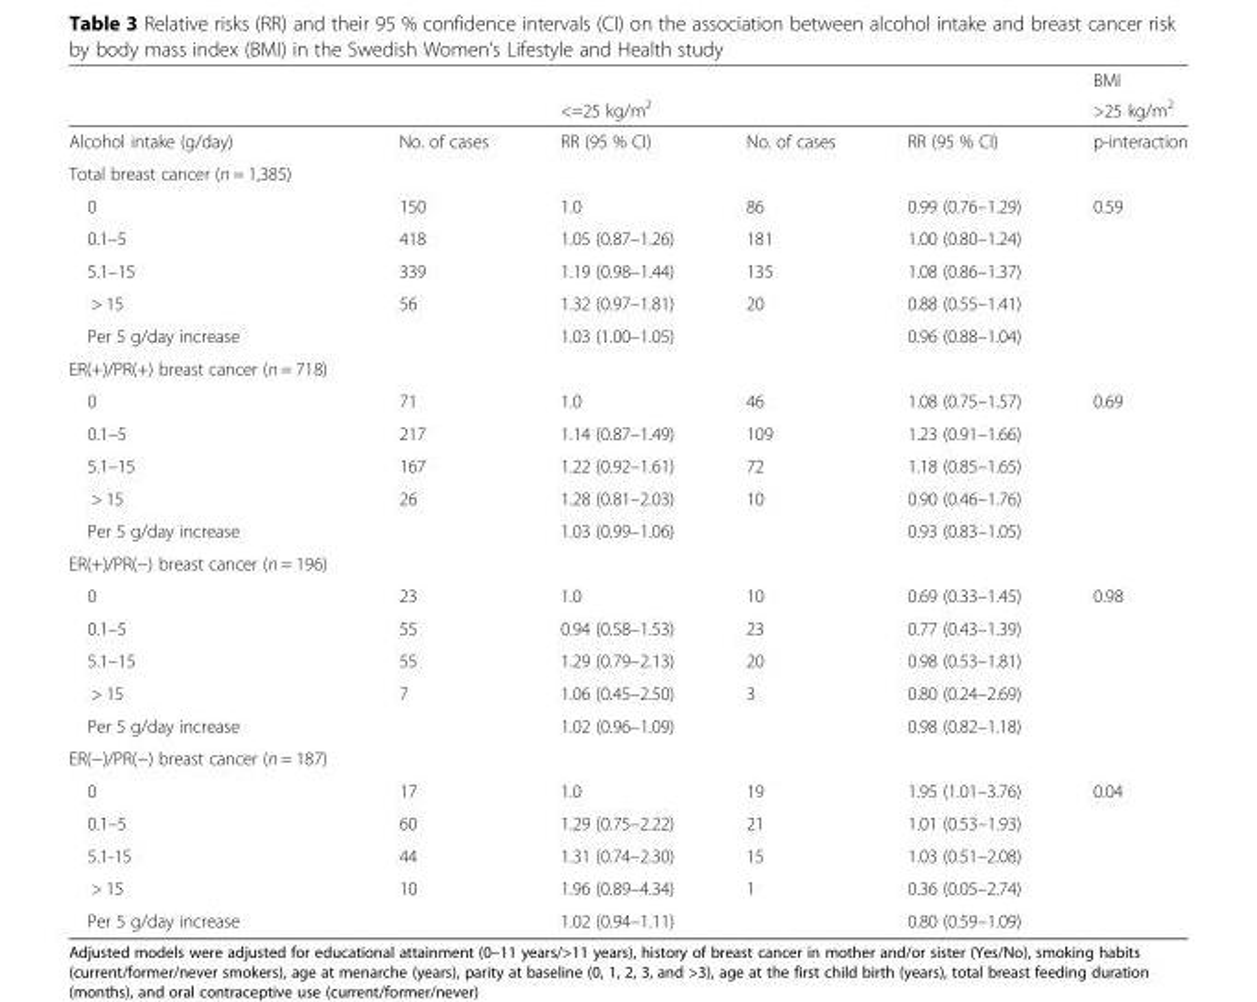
<table><thead><tr><td rowspan="2"></td><td rowspan="2"></td><td rowspan="2">&lt;=25 kg/m<sup>2</sup></td><td rowspan="2"></td><td rowspan="2"></td><td rowspan="2">BMI &gt;25 kg/m<sup>2</sup></td></tr><tr></tr></thead><tbody><tr><td>Alcohol intake (g/day)</td><td>No. of cases</td><td>RR (95 % CI)</td><td>No. of cases</td><td>RR (95 % CI)</td><td>p-interaction</td></tr><tr><td colspan="6">Total breast cancer (n = 1,385)</td></tr><tr><td>0</td><td>150</td><td>1.0</td><td>86</td><td>0.99 (0.76–1.29)</td><td>0.59</td></tr><tr><td>0.1–5</td><td>418</td><td>1.05 (0.87–1.26)</td><td>181</td><td>1.00 (0.80–1.24)</td><td></td></tr><tr><td>5.1–15</td><td>339</td><td>1.19 (0.98–1.44)</td><td>135</td><td>1.08 (0.86–1.37)</td><td></td></tr><tr><td>&gt; 15</td><td>56</td><td>1.32 (0.97–1.81)</td><td>20</td><td>0.88 (0.55–1.41)</td><td></td></tr><tr><td>Per 5 g/day increase</td><td></td><td>1.03 (1.00–1.05)</td><td></td><td>0.96 (0.88–1.04)</td><td></td></tr><tr><td colspan="6">ER(+)/PR(+) breast cancer (n = 718)</td></tr><tr><td>0</td><td>71</td><td>1.0</td><td>46</td><td>1.08 (0.75–1.57)</td><td>0.69</td></tr><tr><td>0.1–5</td><td>217</td><td>1.14 (0.87–1.49)</td><td>109</td><td>1.23 (0.91–1.66)</td><td></td></tr><tr><td>5.1–15</td><td>167</td><td>1.22 (0.92–1.61)</td><td>72</td><td>1.18 (0.85–1.65)</td><td></td></tr><tr><td>&gt; 15</td><td>26</td><td>1.28 (0.81–2.03)</td><td>10</td><td>0.90 (0.46–1.76)</td><td></td></tr><tr><td>Per 5 g/day increase</td><td></td><td>1.03 (0.99–1.06)</td><td></td><td>0.93 (0.83–1.05)</td><td></td></tr><tr><td colspan="6">ER(+)/PR(−) breast cancer (n = 196)</td></tr><tr><td>0</td><td>23</td><td>1.0</td><td>10</td><td>0.69 (0.33–1.45)</td><td>0.98</td></tr><tr><td>0.1–5</td><td>55</td><td>0.94 (0.58–1.53)</td><td>23</td><td>0.77 (0.43–1.39)</td><td></td></tr><tr><td>5.1–15</td><td>55</td><td>1.29 (0.79–2.13)</td><td>20</td><td>0.98 (0.53–1.81)</td><td></td></tr><tr><td>&gt; 15</td><td>7</td><td>1.06 (0.45–2.50)</td><td>3</td><td>0.80 (0.24–2.69)</td><td></td></tr><tr><td>Per 5 g/day increase</td><td></td><td>1.02 (0.96–1.09)</td><td></td><td>0.98 (0.82–1.18)</td><td></td></tr><tr><td colspan="6">ER(−)/PR(−) breast cancer (n = 187)</td></tr><tr><td>0</td><td>17</td><td>1.0</td><td>19</td><td>1.95 (1.01–3.76)</td><td>0.04</td></tr><tr><td>0.1–5</td><td>60</td><td>1.29 (0.75–2.22)</td><td>21</td><td>1.01 (0.53–1.93)</td><td></td></tr><tr><td>5.1-15</td><td>44</td><td>1.31 (0.74–2.30)</td><td>15</td><td>1.03 (0.51–2.08)</td><td></td></tr><tr><td>&gt; 15</td><td>10</td><td>1.96 (0.89–4.34)</td><td>1</td><td>0.36 (0.05–2.74)</td><td></td></tr><tr><td>Per 5 g/day increase</td><td></td><td>1.02 (0.94–1.11)</td><td></td><td>0.80 (0.59–1.09)</td><td></td></tr></tbody></table>